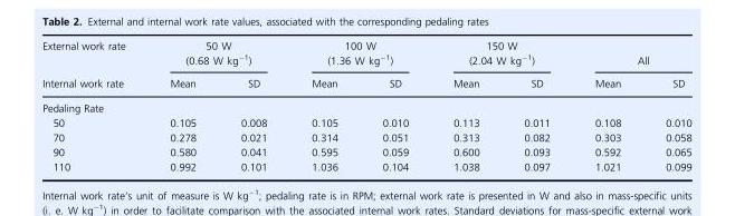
<table><thead><tr><td rowspan="2">External work rate Internal work rate</td><td colspan="2">50 W (0.68 W kg<sup>−1</sup>)</td><td colspan="2">100 W (1.36 W kg<sup>−1</sup>)</td><td colspan="2">150 W (2.04 W kg<sup>−1</sup>)</td><td colspan="2">All</td></tr><tr><td>Mean</td><td>SD</td><td>Mean</td><td>SD</td><td>Mean</td><td>SD</td><td>Mean</td><td>SD</td></tr></thead><tbody><tr><td colspan="9">Pedaling Rate</td></tr><tr><td>50</td><td>0.105</td><td>0.008</td><td>0.105</td><td>0.010</td><td>0.113</td><td>0.011</td><td>0.108</td><td>0.010</td></tr><tr><td>70</td><td>0.278</td><td>0.021</td><td>0.314</td><td>0.051</td><td>0.313</td><td>0.082</td><td>0.303</td><td>0.058</td></tr><tr><td>90</td><td>0.580</td><td>0.041</td><td>0.595</td><td>0.059</td><td>0.600</td><td>0.093</td><td>0.592</td><td>0.065</td></tr><tr><td>110</td><td>0.992</td><td>0.101</td><td>1.036</td><td>0.104</td><td>1.038</td><td>0.097</td><td>1.021</td><td>0.099</td></tr></tbody></table>